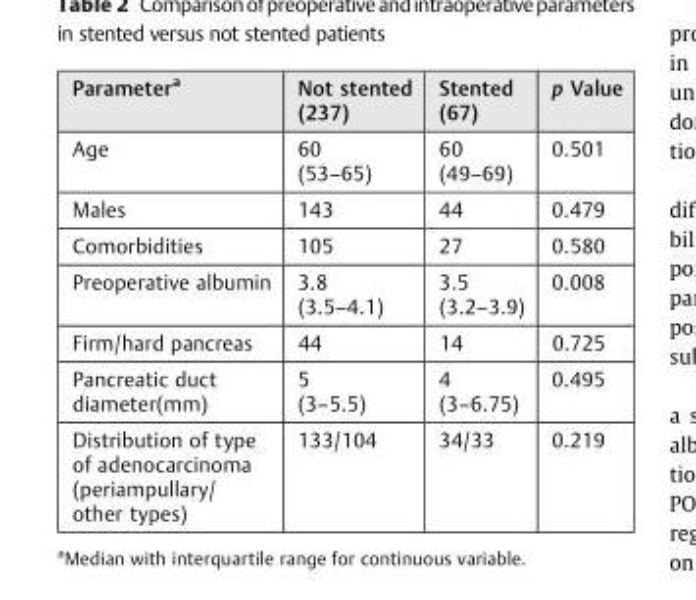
<table><thead><tr><td>Parametera</td><td>Not stented (237)</td><td>Stented (67)</td><td>p Value</td></tr></thead><tbody><tr><td>Age</td><td>60 (53–65)</td><td>60 (49–69)</td><td>0.501</td></tr><tr><td>Males</td><td>143</td><td>44</td><td>0.479</td></tr><tr><td>Comorbidities</td><td>105</td><td>27</td><td>0.580</td></tr><tr><td>Preoperative albumin</td><td>3.8 (3.5–4.1)</td><td>3.5 (3.2–3.9)</td><td>0.008</td></tr><tr><td>Firm/hard pancreas</td><td>44</td><td>14</td><td>0.725</td></tr><tr><td>Pancreatic duct diameter(mm)</td><td>5 (3–5.5)</td><td>4 (3–6.75)</td><td>0.495</td></tr><tr><td>Distribution of type of adenocarcinoma (periampullary/ other types)</td><td>133/104</td><td>34/33</td><td>0.219</td></tr></tbody></table>